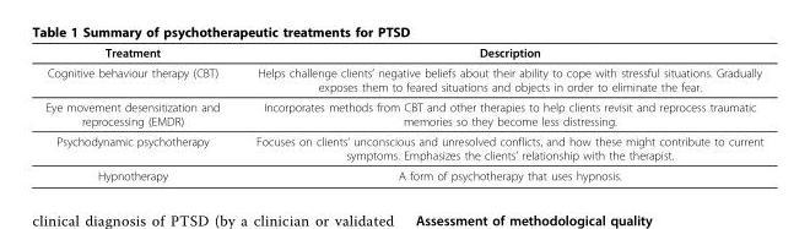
<table><thead><tr><td>Treatment</td><td>Description</td></tr></thead><tbody><tr><td>Cognitive behaviour therapy (CBT)</td><td>Helps challenge clients’ negative beliefs about their ability to cope with stressful situations. Gradually exposes them to feared situations and objects in order to eliminate the fear.</td></tr><tr><td>Eye movement desensitization and reprocessing (EMDR)</td><td>Incorporates methods from CBT and other therapies to help clients revisit and reprocess traumatic memories so they become less distressing.</td></tr><tr><td>Psychodynamic psychotherapy</td><td>Focuses on clients’ unconscious and unresolved conflicts, and how these might contribute to current symptoms. Emphasizes the clients’ relationship with the therapist.</td></tr><tr><td>Hypnotherapy</td><td>A form of psychotherapy that uses hypnosis.</td></tr></tbody></table>